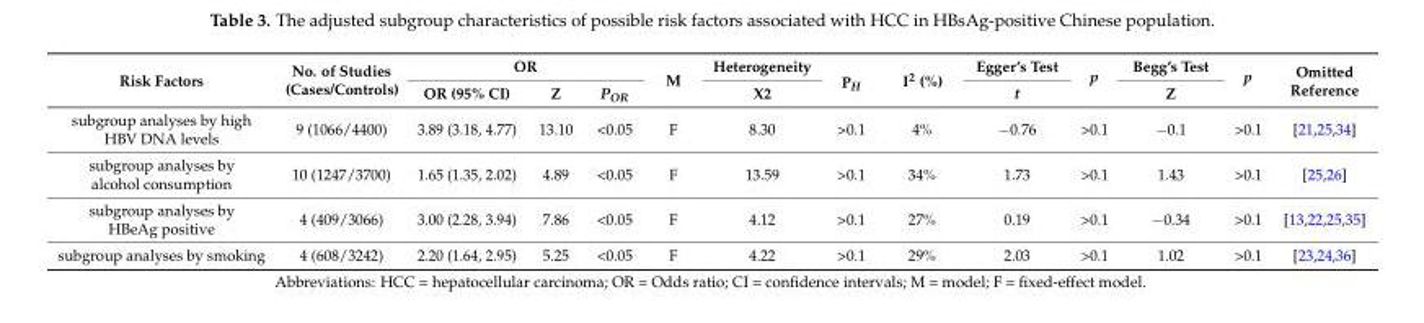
<table><thead><tr><td rowspan="2">Risk Factors</td><td rowspan="2">No. of Studies (Cases/Controls)</td><td colspan="3">OR</td><td rowspan="2">M</td><td rowspan="2">Heterogeneity X2</td><td rowspan="2">P<sub>H</sub></td><td rowspan="2">I<sup>2</sup> (%)</td><td rowspan="2">Egger’s Test t</td><td rowspan="2">p</td><td rowspan="2">Begg’s Test Z</td><td rowspan="2">p</td><td rowspan="2">Omitted Reference</td></tr><tr><td>OR (95% CI)</td><td>Z</td><td>P<sub>OR</sub></td></tr></thead><tbody><tr><td>subgroup analyses by high HBV DNA levels</td><td>9 (1066/4400)</td><td>3.89 (3.18, 4.77)</td><td>13.10</td><td>&lt;0.05</td><td>F</td><td>8.30</td><td>&gt;0.1</td><td>4%</td><td>−0.76</td><td>&gt;0.1</td><td>−0.1</td><td>&gt;0.1</td><td>[21,25,34]</td></tr><tr><td>subgroup analyses by alcohol consumption</td><td>10 (1247/3700)</td><td>1.65 (1.35, 2.02)</td><td>4.89</td><td>&lt;0.05</td><td>F</td><td>13.59</td><td>&gt;0.1</td><td>34%</td><td>1.73</td><td>&gt;0.1</td><td>1.43</td><td>&gt;0.1</td><td>[25,26]</td></tr><tr><td>subgroup analyses by HBeAg positive</td><td>4 (409/3066)</td><td>3.00 (2.28, 3.94)</td><td>7.86</td><td>&lt;0.05</td><td>F</td><td>4.12</td><td>&gt;0.1</td><td>27%</td><td>0.19</td><td>&gt;0.1</td><td>−0.34</td><td>&gt;0.1</td><td>[13,22,25,35]</td></tr><tr><td>subgroup analyses by smoking</td><td>4 (608/3242)</td><td>2.20 (1.64, 2.95)</td><td>5.25</td><td>&lt;0.05</td><td>F</td><td>4.22</td><td>&gt;0.1</td><td>29%</td><td>2.03</td><td>&gt;0.1</td><td>1.02</td><td>&gt;0.1</td><td>[23,24,36]</td></tr></tbody></table>